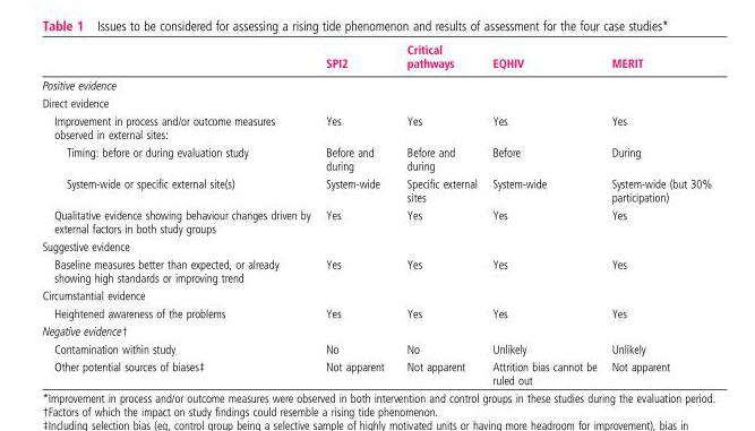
<table><thead><tr><td></td><td>SPI2</td><td>Critical pathways</td><td>EQHIV</td><td>MERIT</td></tr></thead><tbody><tr><td colspan="5">Positive evidence</td></tr><tr><td colspan="5">Direct evidence</td></tr><tr><td>Improvement in process and/or outcome measures observed in external sites:</td><td>Yes</td><td>Yes</td><td>Yes</td><td>Yes</td></tr><tr><td>Timing: before or during evaluation study</td><td>Before and during</td><td>Before and during</td><td>Before</td><td>During</td></tr><tr><td>System-wide or specific external site(s)</td><td>System-wide</td><td>Specific external sites</td><td>System-wide</td><td>System-wide (but 30% participation)</td></tr><tr><td>Qualitative evidence showing behaviour changes driven by external factors in both study groups</td><td>Yes</td><td>Yes</td><td>Yes</td><td>Yes</td></tr><tr><td colspan="5">Suggestive evidence</td></tr><tr><td>Baseline measures better than expected, or already showing high standards or improving trend</td><td>Yes</td><td>Yes</td><td>Yes</td><td>Yes</td></tr><tr><td colspan="5">Circumstantial evidence</td></tr><tr><td>Heightened awareness of the problems</td><td>Yes</td><td>Yes</td><td>Yes</td><td>Yes</td></tr><tr><td colspan="5">Negative evidence†</td></tr><tr><td>Contamination within study</td><td>No</td><td>No</td><td>Unlikely</td><td>Unlikely</td></tr><tr><td>Other potential sources of biases‡</td><td>Not apparent</td><td>Not apparent</td><td>Attrition bias cannot be ruled out</td><td>Not apparent</td></tr></tbody></table>